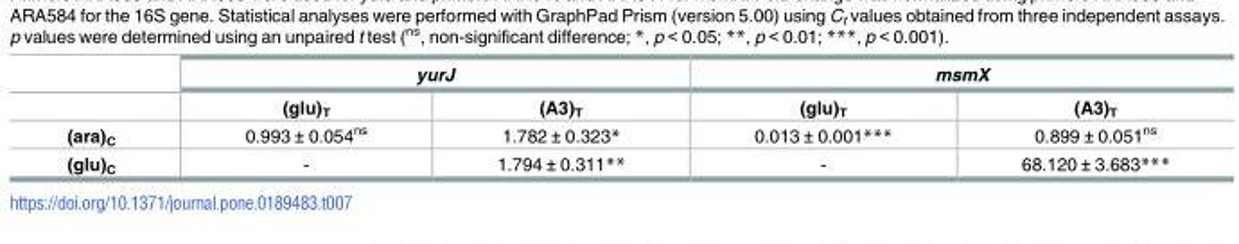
<table><thead><tr><td rowspan="2"></td><td colspan="2">yurJ</td><td colspan="2">msmX</td></tr><tr><td>(glu)<sub>T</sub></td><td>(A3)<sub>T</sub></td><td>(glu)<sub>T</sub></td><td>(A3)<sub>T</sub></td></tr></thead><tbody><tr><td>(ara)<sub>C</sub></td><td>0.993 ± 0.054<sup>ns</sup></td><td>1.782 ± 0.323*</td><td>0.013 ± 0.001***</td><td>0.899 ± 0.051<sup>ns</sup></td></tr><tr><td>(glu)<sub>C</sub></td><td>-</td><td>1.794 ± 0.311**</td><td>-</td><td>68.120 ± 3.683***</td></tr></tbody></table>